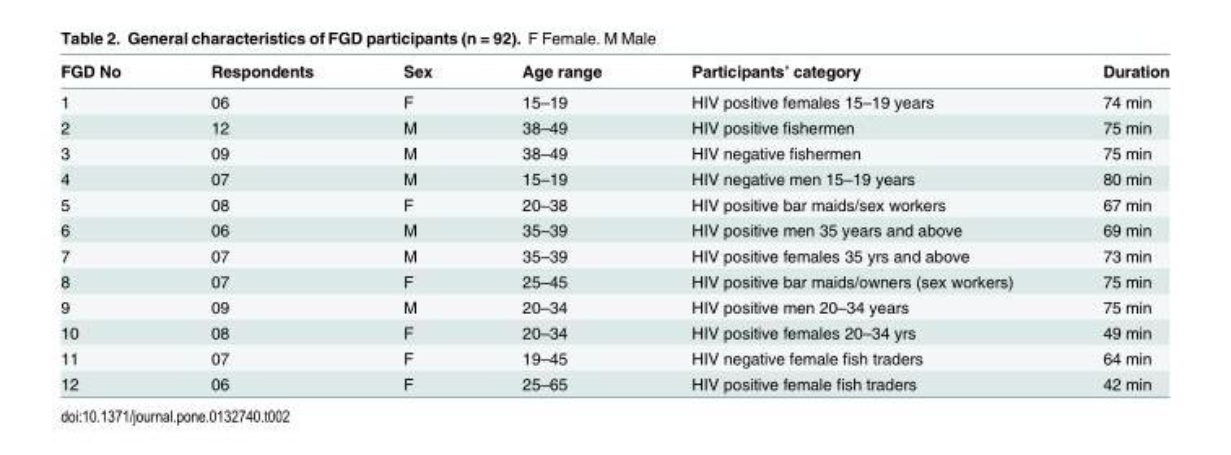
<table><thead><tr><td>FGD No</td><td>Respondents</td><td>Sex</td><td>Age range</td><td>Participants’ category</td><td>Duration</td></tr></thead><tbody><tr><td>1</td><td>06</td><td>F</td><td>15–19</td><td>HIV positive females 15–19 years</td><td>74 min</td></tr><tr><td>2</td><td>12</td><td>M</td><td>38–49</td><td>HIV positive fishermen</td><td>75 min</td></tr><tr><td>3</td><td>09</td><td>M</td><td>38–49</td><td>HIV negative fishermen</td><td>75 min</td></tr><tr><td>4</td><td>07</td><td>M</td><td>15–19</td><td>HIV negative men 15–19 years</td><td>80 min</td></tr><tr><td>5</td><td>08</td><td>F</td><td>20–38</td><td>HIV positive bar maids/sex workers</td><td>67 min</td></tr><tr><td>6</td><td>06</td><td>M</td><td>35–39</td><td>HIV positive men 35 years and above</td><td>69 min</td></tr><tr><td>7</td><td>07</td><td>M</td><td>35–39</td><td>HIV positive females 35 yrs and above</td><td>73 min</td></tr><tr><td>8</td><td>07</td><td>F</td><td>25–45</td><td>HIV positive bar maids/owners (sex workers)</td><td>75 min</td></tr><tr><td>9</td><td>09</td><td>M</td><td>20–34</td><td>HIV positive men 20–34 years</td><td>75 min</td></tr><tr><td>10</td><td>08</td><td>F</td><td>20–34</td><td>HIV positive females 20–34 yrs</td><td>49 min</td></tr><tr><td>11</td><td>07</td><td>F</td><td>19–45</td><td>HIV negative female fish traders</td><td>64 min</td></tr><tr><td>12</td><td>06</td><td>F</td><td>25–65</td><td>HIV positive female fish traders</td><td>42 min</td></tr></tbody></table>